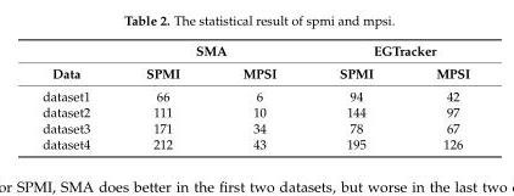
<table><thead><tr><td rowspan="2">Data</td><td colspan="2">SMA</td><td colspan="2">EGTracker</td></tr><tr><td>SPMI</td><td>MPSI</td><td>SPMI</td><td>MPSI</td></tr></thead><tbody><tr><td>dataset1</td><td>66</td><td>6</td><td>94</td><td>42</td></tr><tr><td>dataset2</td><td>111</td><td>10</td><td>144</td><td>97</td></tr><tr><td>dataset3</td><td>171</td><td>34</td><td>78</td><td>67</td></tr><tr><td>dataset4</td><td>212</td><td>43</td><td>195</td><td>126</td></tr></tbody></table>